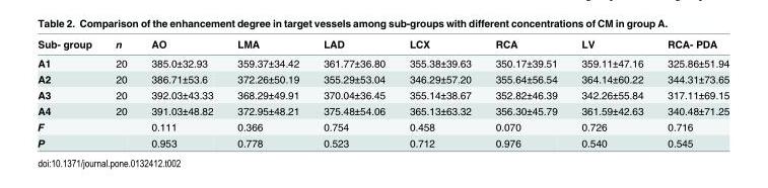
<table><thead><tr><td>Sub- group</td><td>n</td><td>AO</td><td>LMA</td><td>LAD</td><td>LCX</td><td>RCA</td><td>LV</td><td>RCA- PDA</td></tr></thead><tbody><tr><td>A1</td><td>20</td><td>385.0±32.93</td><td>359.37±34.42</td><td>361.77±36.80</td><td>355.38±39.63</td><td>350.17±39.51</td><td>359.11±47.16</td><td>325.86±51.94</td></tr><tr><td>A2</td><td>20</td><td>386.71±53.6</td><td>372.26±50.19</td><td>355.29±53.04</td><td>346.29±57.20</td><td>355.64±56.54</td><td>364.14±60.22</td><td>344.31±73.65</td></tr><tr><td>A3</td><td>20</td><td>392.03±43.33</td><td>368.29±49.91</td><td>370.04±36.45</td><td>355.14±38.67</td><td>352.82±46.39</td><td>342.26±55.84</td><td>317.11±69.15</td></tr><tr><td>A4</td><td>20</td><td>391.03±48.82</td><td>372.95±48.21</td><td>375.48±54.06</td><td>365.13±63.32</td><td>356.30±45.79</td><td>361.59±42.63</td><td>340.48±71.25</td></tr><tr><td>F</td><td></td><td>0.111</td><td>0.366</td><td>0.754</td><td>0.458</td><td>0.070</td><td>0.726</td><td>0.716</td></tr><tr><td>P</td><td></td><td>0.953</td><td>0.778</td><td>0.523</td><td>0.712</td><td>0.976</td><td>0.540</td><td>0.545</td></tr></tbody></table>